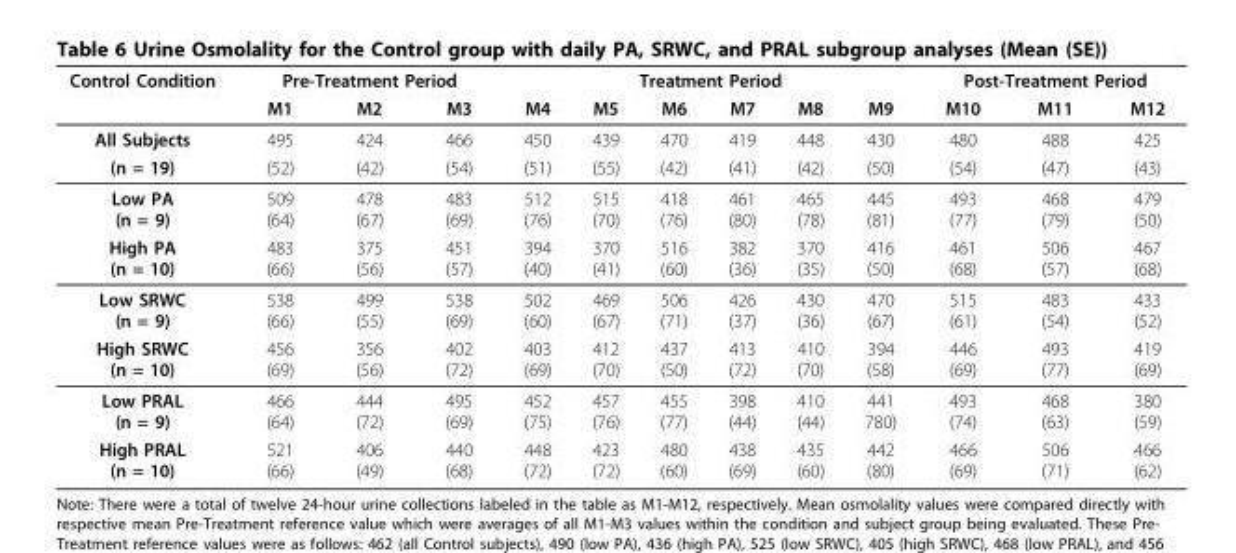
<table><thead><tr><td rowspan="2">Control Condition</td><td colspan="3">Pre-Treatment Period</td><td colspan="6">Treatment Period</td><td colspan="3">Post-Treatment Period</td></tr><tr><td>M1</td><td>M2</td><td>M3</td><td>M4</td><td>M5</td><td>M6</td><td>M7</td><td>M8</td><td>M9</td><td>M10</td><td>M11</td><td>M12</td></tr></thead><tbody><tr><td>All Subjects</td><td>495</td><td>424</td><td>466</td><td>450</td><td>439</td><td>470</td><td>419</td><td>448</td><td>430</td><td>480</td><td>488</td><td>425</td></tr><tr><td>(n = 19)</td><td>(52)</td><td>(42)</td><td>(54)</td><td>(51)</td><td>(55)</td><td>(42)</td><td>(41)</td><td>(42)</td><td>(50)</td><td>(54)</td><td>(47)</td><td>(43)</td></tr><tr><td>Low PA (n = 9)</td><td>509 (64)</td><td>478 (67)</td><td>483 (69)</td><td>512 (76)</td><td>515 (70)</td><td>418 (76)</td><td>461 (80)</td><td>465 (78)</td><td>445 (81)</td><td>493 (77)</td><td>468 (79)</td><td>479 (50)</td></tr><tr><td>High PA (n = 10)</td><td>483 (66)</td><td>375 (56)</td><td>451 (57)</td><td>394 (40)</td><td>370 (41)</td><td>516 (60)</td><td>382 (36)</td><td>370 (35)</td><td>416 (50)</td><td>461 (68)</td><td>506 (57)</td><td>467 (68)</td></tr><tr><td>Low SRWC (n = 9)</td><td>538 (66)</td><td>499 (55)</td><td>538 (69)</td><td>502 (60)</td><td>469 (67)</td><td>506 (71)</td><td>426 (37)</td><td>430 (36)</td><td>470 (67)</td><td>515 (61)</td><td>483 (54)</td><td>433 (52)</td></tr><tr><td>High SRWC (n = 10)</td><td>456 (69)</td><td>356 (56)</td><td>402 (72)</td><td>403 (69)</td><td>412 (70)</td><td>437 (50)</td><td>413 (72)</td><td>410 (70)</td><td>394 (58)</td><td>446 (69)</td><td>493 (77)</td><td>419 (69)</td></tr><tr><td>Low PRAL (n = 9)</td><td>466 (64)</td><td>444 (72)</td><td>495 (69)</td><td>452 (75)</td><td>457 (76)</td><td>455 (77)</td><td>398 (44)</td><td>410 (44)</td><td>441 780)</td><td>493 (74)</td><td>468 (63)</td><td>380 (59)</td></tr><tr><td>High PRAL (n = 10)</td><td>521 (66)</td><td>406 (49)</td><td>440 (68)</td><td>448 (72)</td><td>423 (72)</td><td>480 (60)</td><td>438 (69)</td><td>435 (60)</td><td>442 (80)</td><td>466 (69)</td><td>506 (71)</td><td>466 (62)</td></tr></tbody></table>